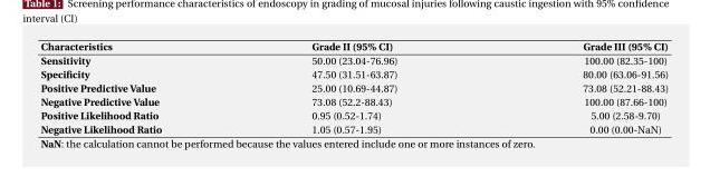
<table><thead><tr><td>Characteristics</td><td>Grade II (95% CI)</td><td>Grade III (95% CI)</td></tr></thead><tbody><tr><td>Sensitivity</td><td>50.00 (23.04-76.96)</td><td>100.00 (82.35-100)</td></tr><tr><td>Specificity</td><td>47.50 (31.51-63.87)</td><td>80.00 (63.06-91.56)</td></tr><tr><td>Positive Predictive Value</td><td>25.00 (10.69-44.87)</td><td>73.08 (52.21-88.43)</td></tr><tr><td>Negative Predictive Value</td><td>73.08 (52.2-88.43)</td><td>100.00 (87.66-100)</td></tr><tr><td>Positive Likelihood Ratio</td><td>0.95 (0.52-1.74)</td><td>5.00 (2.58-9.70)</td></tr><tr><td>Negative Likelihood Ratio</td><td>1.05 (0.57-1.95)</td><td>0.00 (0.00-NaN)</td></tr></tbody></table>